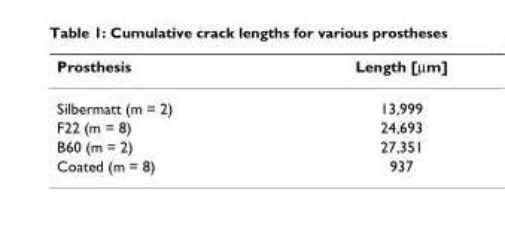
<table><thead><tr><td>Prosthesis</td><td>Length [µm]</td></tr></thead><tbody><tr><td>Silbermatt (m = 2)</td><td>13,999</td></tr><tr><td>F22 (m = 8)</td><td>24,693</td></tr><tr><td>B60 (m = 2)</td><td>27,351</td></tr><tr><td>Coated (m = 8)</td><td>937</td></tr></tbody></table>